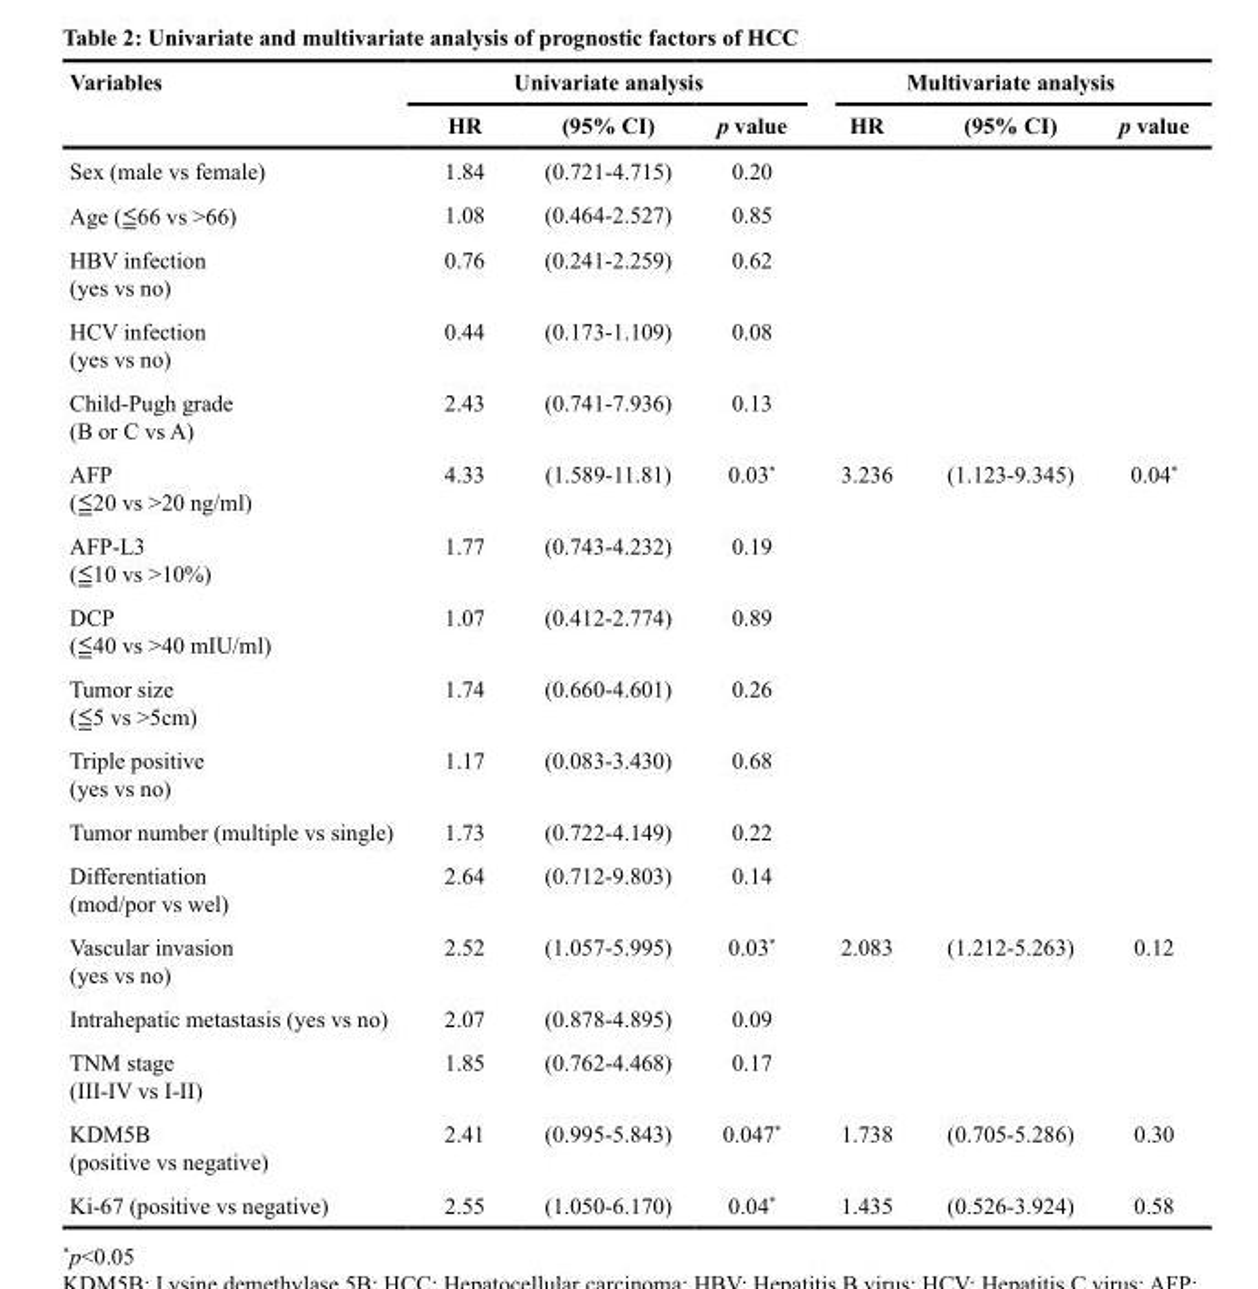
<table><thead><tr><td rowspan="2">Variables</td><td colspan="3">Univariate analysis</td><td colspan="3">Multivariate analysis</td></tr><tr><td>HR</td><td>(95% CI)</td><td>p value</td><td>HR</td><td>(95% CI)</td><td>p value</td></tr></thead><tbody><tr><td>Sex (male vs female)</td><td>1.84</td><td>(0.721-4.715)</td><td>0.20</td><td></td><td></td><td></td></tr><tr><td>Age (≦66 vs &gt;66)</td><td>1.08</td><td>(0.464-2.527)</td><td>0.85</td><td></td><td></td><td></td></tr><tr><td>HBV infection (yes vs no)</td><td>0.76</td><td>(0.241-2.259)</td><td>0.62</td><td></td><td></td><td></td></tr><tr><td>HCV infection (yes vs no)</td><td>0.44</td><td>(0.173-1.109)</td><td>0.08</td><td></td><td></td><td></td></tr><tr><td>Child-Pugh grade (B or C vs A)</td><td>2.43</td><td>(0.741-7.936)</td><td>0.13</td><td></td><td></td><td></td></tr><tr><td>AFP (≦20 vs &gt;20 ng/ml)</td><td>4.33</td><td>(1.589-11.81)</td><td>0.03*</td><td>3.236</td><td>(1.123-9.345)</td><td>0.04*</td></tr><tr><td>AFP-L3 (≦10 vs &gt;10%)</td><td>1.77</td><td>(0.743-4.232)</td><td>0.19</td><td></td><td></td><td></td></tr><tr><td>DCP (≦40 vs &gt;40 mIU/ml)</td><td>1.07</td><td>(0.412-2.774)</td><td>0.89</td><td></td><td></td><td></td></tr><tr><td>Tumor size (≦5 vs &gt;5cm)</td><td>1.74</td><td>(0.660-4.601)</td><td>0.26</td><td></td><td></td><td></td></tr><tr><td>Triple positive (yes vs no)</td><td>1.17</td><td>(0.083-3.430)</td><td>0.68</td><td></td><td></td><td></td></tr><tr><td>Tumor number (multiple vs single)</td><td>1.73</td><td>(0.722-4.149)</td><td>0.22</td><td></td><td></td><td></td></tr><tr><td>Differentiation (mod/por vs wel)</td><td>2.64</td><td>(0.712-9.803)</td><td>0.14</td><td></td><td></td><td></td></tr><tr><td>Vascular invasion (yes vs no)</td><td>2.52</td><td>(1.057-5.995)</td><td>0.03*</td><td>2.083</td><td>(1.212-5.263)</td><td>0.12</td></tr><tr><td>Intrahepatic metastasis (yes vs no)</td><td>2.07</td><td>(0.878-4.895)</td><td>0.09</td><td></td><td></td><td></td></tr><tr><td>TNM stage (III-IV vs I-II)</td><td>1.85</td><td>(0.762-4.468)</td><td>0.17</td><td></td><td></td><td></td></tr><tr><td>KDM5B (positive vs negative)</td><td>2.41</td><td>(0.995-5.843)</td><td>0.047*</td><td>1.738</td><td>(0.705-5.286)</td><td>0.30</td></tr><tr><td>Ki-67 (positive vs negative)</td><td>2.55</td><td>(1.050-6.170)</td><td>0.04*</td><td>1.435</td><td>(0.526-3.924)</td><td>0.58</td></tr></tbody></table>